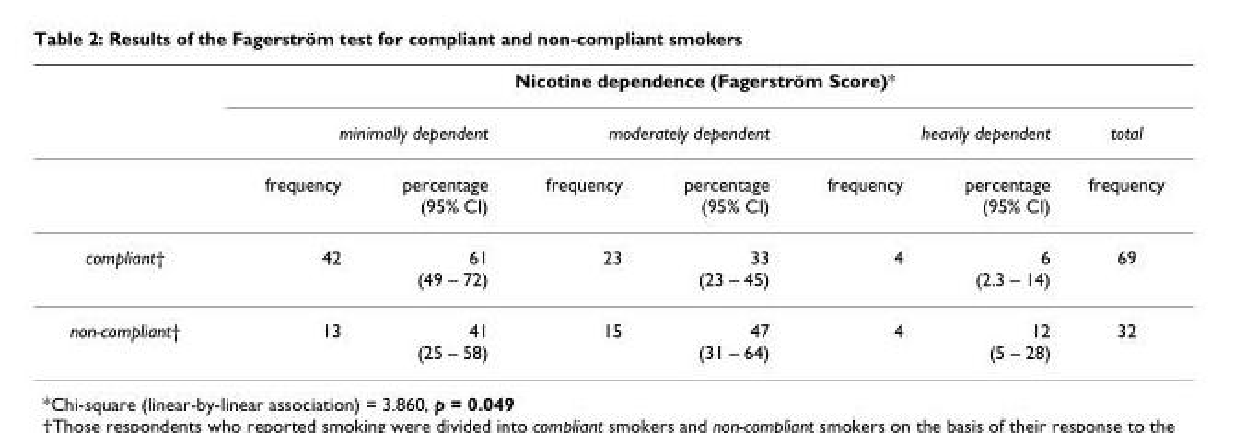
<table><thead><tr><td rowspan="3"></td><td colspan="7">Nicotine dependence (Fagerström Score)*</td></tr><tr><td colspan="2">minimally dependent</td><td colspan="2">moderately dependent</td><td colspan="2">heavily dependent</td><td rowspan="2">total frequency</td></tr><tr><td>frequency</td><td>percentage (95% CI)</td><td>frequency</td><td>percentage (95% CI)</td><td>frequency</td><td>percentage (95% CI)</td></tr></thead><tbody><tr><td>compliant†</td><td>42</td><td>61 (49 – 72)</td><td>23</td><td>33 (23 – 45)</td><td>4</td><td>6 (2.3 – 14)</td><td>69</td></tr><tr><td>non-compliant†</td><td>13</td><td>41 (25 – 58)</td><td>15</td><td>47 (31 – 64)</td><td>4</td><td>12 (5 – 28)</td><td>32</td></tr></tbody></table>